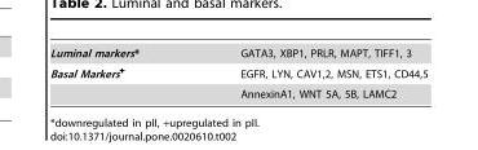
<table><tbody><tr><td>Luminal markers*</td><td>GATA3, XBP1, PRLR, MAPT, TIFF1, 3</td></tr><tr><td rowspan="2">Basal Markers<sup>+</sup></td><td>EGFR, LYN, CAV1,2, MSN, ETS1, CD44,5</td></tr><tr><td>AnnexinA1, WNT 5A, 5B, LAMC2</td></tr></tbody></table>